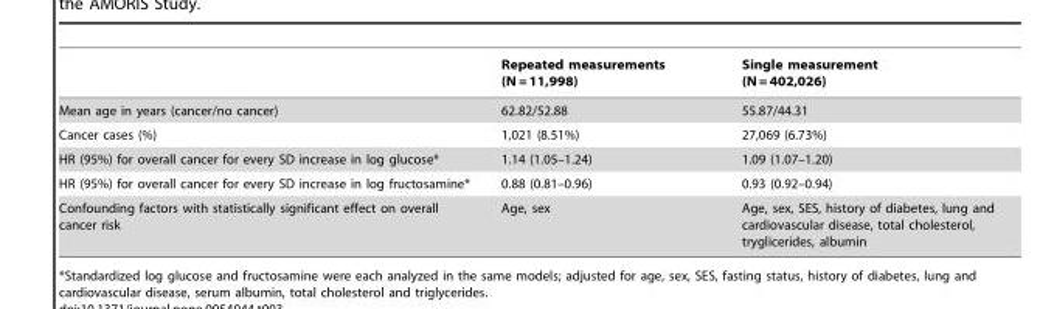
<table><thead><tr><td></td><td>Repeated measurements (N = 11,998)</td><td>Single measurement (N = 402,026)</td></tr></thead><tbody><tr><td>Mean age in years (cancer/no cancer)</td><td>62.82/52.88</td><td>55.87/44.31</td></tr><tr><td>Cancer cases (%)</td><td>1,021 (8.51%)</td><td>27,069 (6.73%)</td></tr><tr><td>HR (95%) for overall cancer for every SD increase in log glucose*</td><td>1.14 (1.05–1.24)</td><td>1.09 (1.07–1.20)</td></tr><tr><td>HR (95%) for overall cancer for every SD increase in log fructosamine*</td><td>0.88 (0.81–0.96)</td><td>0.93 (0.92–0.94)</td></tr><tr><td>Confounding factors with statistically significant effect on overall cancer risk</td><td>Age, sex</td><td>Age, sex, SES, history of diabetes, lung and cardiovascular disease, total cholesterol, tryglicerides, albumin</td></tr></tbody></table>